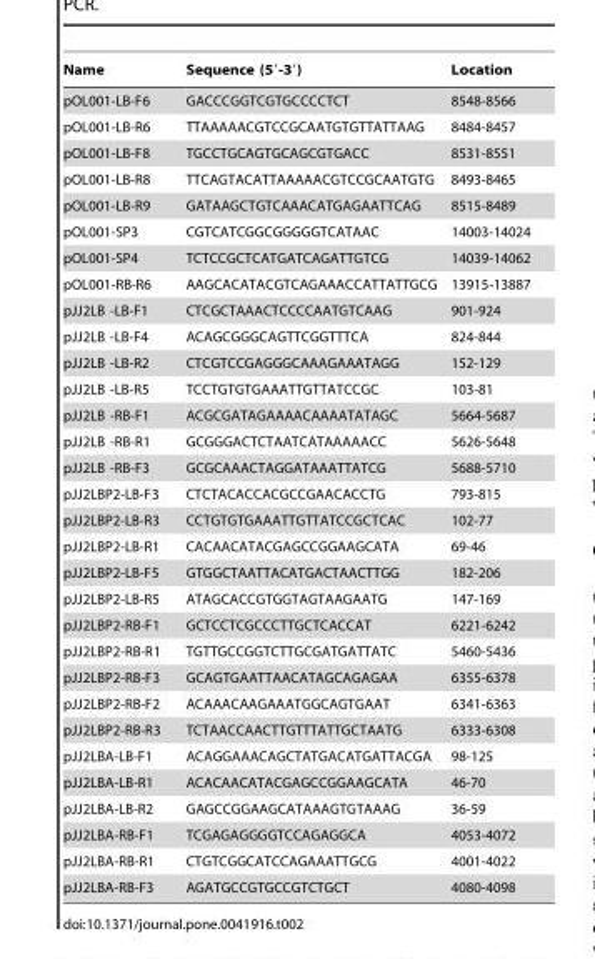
<table><thead><tr><td>Name</td><td>Sequence (5′-3′)</td><td>Location</td></tr></thead><tbody><tr><td>pOL001-LB-F6</td><td>GACCCGGTCGTGCCCCTCT</td><td>8548-8566</td></tr><tr><td>pOL001-LB-R6</td><td>TTAAAAACGTCCGCAATGTGTTATTAAG</td><td>8484-8457</td></tr><tr><td>pOL001-LB-F8</td><td>TGCCTGCAGTGCAGCGTGACC</td><td>8531-8551</td></tr><tr><td>pOL001-LB-R8</td><td>TTCAGTACATTAAAAACGTCCGCAATGTG</td><td>8493-8465</td></tr><tr><td>pOL001-LB-R9</td><td>GATAAGCTGTCAAACATGAGAATTCAG</td><td>8515-8489</td></tr><tr><td>pOL001-SP3</td><td>CGTCATCGGCGGGGGTCATAAC</td><td>14003-14024</td></tr><tr><td>pOL001-SP4</td><td>TCTCCGCTCATGATCAGATTGTCG</td><td>14039-14062</td></tr><tr><td>pOL001-RB-R6</td><td>AAGCACATACGTCAGAAACCATTATTGCG</td><td>13915-13887</td></tr><tr><td>pJJ2LB -LB-F1</td><td>CTCGCTAAACTCCCCAATGTCAAG</td><td>901-924</td></tr><tr><td>pJJ2LB -LB-F4</td><td>ACAGCGGGCAGTTCGGTTTCA</td><td>824-844</td></tr><tr><td>pJJ2LB -LB-R2</td><td>CTCGTCCGAGGGCAAAGAAATAGG</td><td>152-129</td></tr><tr><td>pJJ2LB -LB-R5</td><td>TCCTGTGTGAAATTGTTATCCGC</td><td>103-81</td></tr><tr><td>pJJ2LB -RB-F1</td><td>ACGCGATAGAAAACAAAATATAGC</td><td>5664-5687</td></tr><tr><td>pJJ2LB -RB-R1</td><td>GCGGGACTCTAATCATAAAAACC</td><td>5626-5648</td></tr><tr><td>pJJ2LB -RB-F3</td><td>GCGCAAACTAGGATAAATTATCG</td><td>5688-5710</td></tr><tr><td>pJJ2LBP2-LB-F3</td><td>CTCTACACCACGCCGAACACCTG</td><td>793-815</td></tr><tr><td>pJJ2LBP2-LB-R3</td><td>CCTGTGTGAAATTGTTATCCGCTCAC</td><td>102-77</td></tr><tr><td>pJJ2LBP2-LB-R1</td><td>CACAACATACGAGCCGGAAGCATA</td><td>69-46</td></tr><tr><td>pJJ2LBP2-LB-F5</td><td>GTGGCTAATTACATGACTAACTTGG</td><td>182-206</td></tr><tr><td>pJJ2LBP2-LB-R5</td><td>ATAGCACCGTGGTAGTAAGAATG</td><td>147-169</td></tr><tr><td>pJJ2LBP2-RB-F1</td><td>GCTCCTCGCCCTTGCTCACCAT</td><td>6221-6242</td></tr><tr><td>pJJ2LBP2-RB-R1</td><td>TGTTGCCGGTCTTGCGATGATTATC</td><td>5460-5436</td></tr><tr><td>pJJ2LBP2-RB-F3</td><td>GCAGTGAATTAACATAGCAGAGAA</td><td>6355-6378</td></tr><tr><td>pJJ2LBP2-RB-F2</td><td>ACAAACAAGAAATGGCAGTGAAT</td><td>6341-6363</td></tr><tr><td>pJJ2LBP2-RB-R3</td><td>TCTAACCAACTTGTTTATTGCTAATG</td><td>6333-6308</td></tr><tr><td>pJJ2LBA-LB-F1</td><td>ACAGGAAACAGCTATGACATGATTACGA</td><td>98-125</td></tr><tr><td>pJJ2LBA-LB-R1</td><td>ACACAACATACGAGCCGGAAGCATA</td><td>46-70</td></tr><tr><td>pJJ2LBA-LB-R2</td><td>GAGCCGGAAGCATAAAGTGTAAAG</td><td>36-59</td></tr><tr><td>pJJ2LBA-RB-F1</td><td>TCGAGAGGGGTCCAGAGGCA</td><td>4053-4072</td></tr><tr><td>pJJ2LBA-RB-R1</td><td>CTGTCGGCATCCAGAAATTGCG</td><td>4001-4022</td></tr><tr><td>pJJ2LBA-RB-F3</td><td>AGATGCCGTGCCGTCTGCT</td><td>4080-4098</td></tr></tbody></table>